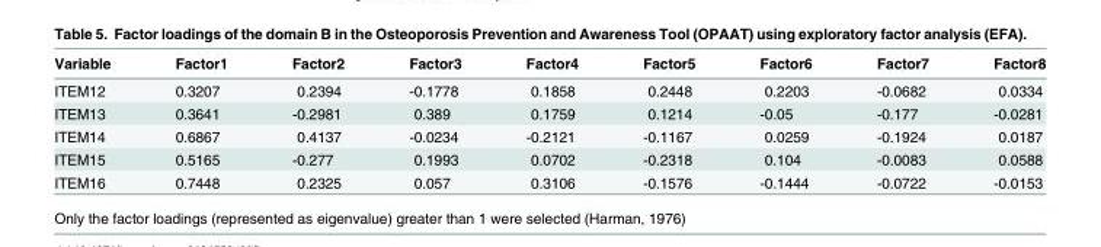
<table><thead><tr><td>Variable</td><td>Factor1</td><td>Factor2</td><td>Factor3</td><td>Factor4</td><td>Factor5</td><td>Factor6</td><td>Factor7</td><td>Factor8</td></tr></thead><tbody><tr><td>ITEM12</td><td>0.3207</td><td>0.2394</td><td>-0.1778</td><td>0.1858</td><td>0.2448</td><td>0.2203</td><td>-0.0682</td><td>0.0334</td></tr><tr><td>ITEM13</td><td>0.3641</td><td>-0.2981</td><td>0.389</td><td>0.1759</td><td>0.1214</td><td>-0.05</td><td>-0.177</td><td>-0.0281</td></tr><tr><td>ITEM14</td><td>0.6867</td><td>0.4137</td><td>-0.0234</td><td>-0.2121</td><td>-0.1167</td><td>0.0259</td><td>-0.1924</td><td>0.0187</td></tr><tr><td>ITEM15</td><td>0.5165</td><td>-0.277</td><td>0.1993</td><td>0.0702</td><td>-0.2318</td><td>0.104</td><td>-0.0083</td><td>0.0588</td></tr><tr><td>ITEM16</td><td>0.7448</td><td>0.2325</td><td>0.057</td><td>0.3106</td><td>-0.1576</td><td>-0.1444</td><td>-0.0722</td><td>-0.0153</td></tr></tbody></table>